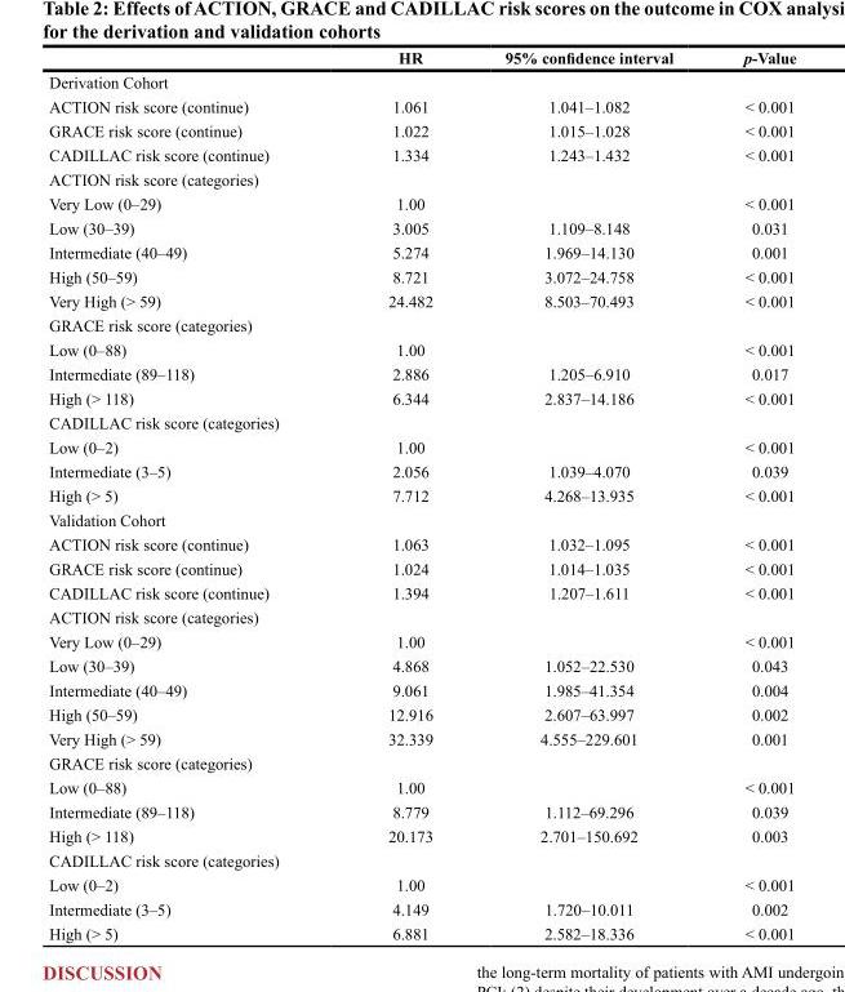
<table><thead><tr><td></td><td>HR</td><td>95% confidence interval</td><td>p-Value</td></tr></thead><tbody><tr><td colspan="4">Derivation Cohort</td></tr><tr><td>ACTION risk score (continue)</td><td>1.061</td><td>1.041–1.082</td><td>&lt; 0.001</td></tr><tr><td>GRACE risk score (continue)</td><td>1.022</td><td>1.015–1.028</td><td>&lt; 0.001</td></tr><tr><td>CADILLAC risk score (continue)</td><td>1.334</td><td>1.243–1.432</td><td>&lt; 0.001</td></tr><tr><td colspan="4">ACTION risk score (categories)</td></tr><tr><td>Very Low (0–29)</td><td>1.00</td><td></td><td>&lt; 0.001</td></tr><tr><td>Low (30–39)</td><td>3.005</td><td>1.109–8.148</td><td>0.031</td></tr><tr><td>Intermediate (40–49)</td><td>5.274</td><td>1.969–14.130</td><td>0.001</td></tr><tr><td>High (50–59)</td><td>8.721</td><td>3.072–24.758</td><td>&lt; 0.001</td></tr><tr><td>Very High (&gt; 59)</td><td>24.482</td><td>8.503–70.493</td><td>&lt; 0.001</td></tr><tr><td colspan="4">GRACE risk score (categories)</td></tr><tr><td>Low (0–88)</td><td>1.00</td><td></td><td>&lt; 0.001</td></tr><tr><td>Intermediate (89–118)</td><td>2.886</td><td>1.205–6.910</td><td>0.017</td></tr><tr><td>High (&gt; 118)</td><td>6.344</td><td>2.837–14.186</td><td>&lt; 0.001</td></tr><tr><td colspan="4">CADILLAC risk score (categories)</td></tr><tr><td>Low (0–2)</td><td>1.00</td><td></td><td>&lt; 0.001</td></tr><tr><td>Intermediate (3–5)</td><td>2.056</td><td>1.039–4.070</td><td>0.039</td></tr><tr><td>High (&gt; 5)</td><td>7.712</td><td>4.268–13.935</td><td>&lt; 0.001</td></tr><tr><td colspan="4">Validation Cohort</td></tr><tr><td>ACTION risk score (continue)</td><td>1.063</td><td>1.032–1.095</td><td>&lt; 0.001</td></tr><tr><td>GRACE risk score (continue)</td><td>1.024</td><td>1.014–1.035</td><td>&lt; 0.001</td></tr><tr><td>CADILLAC risk score (continue)</td><td>1.394</td><td>1.207–1.611</td><td>&lt; 0.001</td></tr><tr><td colspan="4">ACTION risk score (categories)</td></tr><tr><td>Very Low (0–29)</td><td>1.00</td><td></td><td>&lt; 0.001</td></tr><tr><td>Low (30–39)</td><td>4.868</td><td>1.052–22.530</td><td>0.043</td></tr><tr><td>Intermediate (40–49)</td><td>9.061</td><td>1.985–41.354</td><td>0.004</td></tr><tr><td>High (50–59)</td><td>12.916</td><td>2.607–63.997</td><td>0.002</td></tr><tr><td>Very High (&gt; 59)</td><td>32.339</td><td>4.555–229.601</td><td>0.001</td></tr><tr><td colspan="4">GRACE risk score (categories)</td></tr><tr><td>Low (0–88)</td><td>1.00</td><td></td><td>&lt; 0.001</td></tr><tr><td>Intermediate (89–118)</td><td>8.779</td><td>1.112–69.296</td><td>0.039</td></tr><tr><td>High (&gt; 118)</td><td>20.173</td><td>2.701–150.692</td><td>0.003</td></tr><tr><td colspan="4">CADILLAC risk score (categories)</td></tr><tr><td>Low (0–2)</td><td>1.00</td><td></td><td>&lt; 0.001</td></tr><tr><td>Intermediate (3–5)</td><td>4.149</td><td>1.720–10.011</td><td>0.002</td></tr><tr><td>High (&gt; 5)</td><td>6.881</td><td>2.582–18.336</td><td>&lt; 0.001</td></tr></tbody></table>